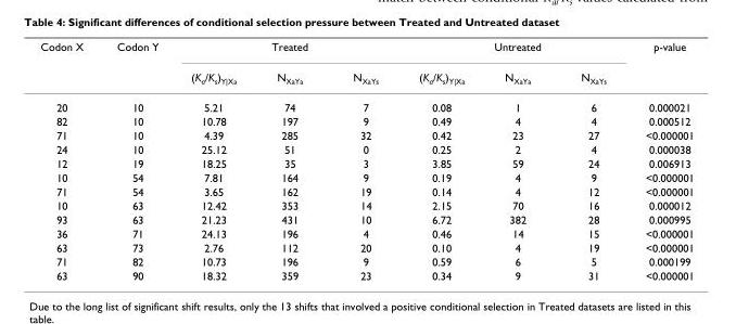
<table><thead><tr><td rowspan="2">Codon X</td><td rowspan="2">Codon Y</td><td colspan="3">Treated</td><td colspan="3">Untreated</td><td rowspan="2">p-value</td></tr><tr><td>(K<sub>a</sub>/K<sub>s</sub>)<sub>Y|Xa</sub></td><td>N<sub>XaYa</sub></td><td>N<sub>XaYs</sub></td><td>(K<sub>a</sub>/K<sub>s</sub>)<sub>Y|Xa</sub></td><td>N<sub>XaYa</sub></td><td>N<sub>XaYs</sub></td></tr></thead><tbody><tr><td>20</td><td>10</td><td>5.21</td><td>74</td><td>7</td><td>0.08</td><td>1</td><td>6</td><td>0.000021</td></tr><tr><td>82</td><td>10</td><td>10.78</td><td>197</td><td>9</td><td>0.49</td><td>4</td><td>4</td><td>0.000512</td></tr><tr><td>71</td><td>10</td><td>4.39</td><td>285</td><td>32</td><td>0.42</td><td>23</td><td>27</td><td>&lt;0.000001</td></tr><tr><td>24</td><td>10</td><td>25.12</td><td>51</td><td>0</td><td>0.25</td><td>2</td><td>4</td><td>0.000038</td></tr><tr><td>12</td><td>19</td><td>18.25</td><td>35</td><td>3</td><td>3.85</td><td>59</td><td>24</td><td>0.006913</td></tr><tr><td>10</td><td>54</td><td>7.81</td><td>164</td><td>9</td><td>0.19</td><td>4</td><td>9</td><td>&lt;0.000001</td></tr><tr><td>71</td><td>54</td><td>3.65</td><td>162</td><td>19</td><td>0.14</td><td>4</td><td>12</td><td>&lt;0.000001</td></tr><tr><td>10</td><td>63</td><td>12.42</td><td>353</td><td>14</td><td>2.15</td><td>70</td><td>16</td><td>0.000012</td></tr><tr><td>93</td><td>63</td><td>21.23</td><td>431</td><td>10</td><td>6.72</td><td>382</td><td>28</td><td>0.000995</td></tr><tr><td>36</td><td>71</td><td>24.13</td><td>196</td><td>4</td><td>0.46</td><td>14</td><td>15</td><td>&lt;0.000001</td></tr><tr><td>63</td><td>73</td><td>2.76</td><td>112</td><td>20</td><td>0.10</td><td>4</td><td>19</td><td>&lt;0.000001</td></tr><tr><td>71</td><td>82</td><td>10.73</td><td>196</td><td>9</td><td>0.59</td><td>6</td><td>5</td><td>0.000199</td></tr><tr><td>63</td><td>90</td><td>18.32</td><td>359</td><td>23</td><td>0.34</td><td>9</td><td>31</td><td>&lt;0.000001</td></tr></tbody></table>